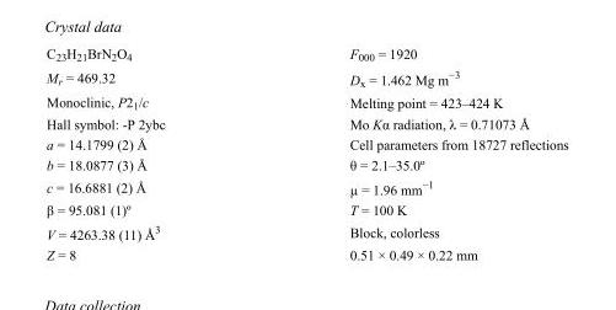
<table><tbody><tr><td>C<sub>23</sub>H<sub>21</sub>BrN<sub>2</sub>O<sub>4</sub></td><td>F000 = 1920</td></tr><tr><td>M<sub>r</sub> = 469.32</td><td>D<sub>x</sub> = 1.462 Mg m<sup>−3</sup></td></tr><tr><td>Monoclinic, P2<sub>1</sub>/c</td><td>Melting point = 423–424 K</td></tr><tr><td>Hall symbol: -P 2ybc</td><td>Mo Kα radiation, λ = 0.71073 Å</td></tr><tr><td>a = 14.1799 (2) Å</td><td>Cell parameters from 18727 reflections</td></tr><tr><td>b = 18.0877 (3) Å</td><td>θ = 2.1–35.0º</td></tr><tr><td>c = 16.6881 (2) Å</td><td>µ = 1.96 mm<sup>−1</sup></td></tr><tr><td>β = 95.081 (1)º</td><td>T = 100 K</td></tr><tr><td>V = 4263.38 (11) Å<sup>3</sup></td><td>Block, colorless</td></tr><tr><td>Z = 8</td><td>0.51 × 0.49 × 0.22 mm</td></tr></tbody></table>